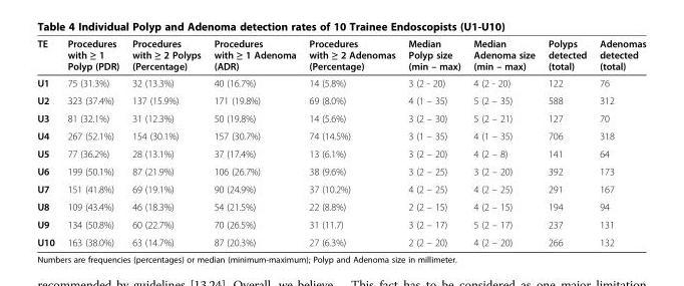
<table><thead><tr><td>TE</td><td>Procedures with ≥ 1 Polyp (PDR)</td><td>Procedures with ≥ 2 Polyps (Percentage)</td><td>Procedures with ≥ 1 Adenoma (ADR)</td><td>Procedures with ≥ 2 Adenomas (Percentage)</td><td>Median Polyp size (min – max)</td><td>Median Adenoma size (min – max)</td><td>Polyps detected (total)</td><td>Adenomas detected (total)</td></tr></thead><tbody><tr><td>U1</td><td>75 (31.3%)</td><td>32 (13.3%)</td><td>40 (16.7%)</td><td>14 (5.8%)</td><td>3 (2 - 20)</td><td>4 (2 - 20)</td><td>122</td><td>76</td></tr><tr><td>U2</td><td>323 (37.4%)</td><td>137 (15.9%)</td><td>171 (19.8%)</td><td>69 (8.0%)</td><td>4 (1 – 35)</td><td>5 (2 – 35)</td><td>588</td><td>312</td></tr><tr><td>U3</td><td>81 (32.1%)</td><td>31 (12.3%)</td><td>50 (19.8%)</td><td>14 (5.6%)</td><td>3 (2 – 30)</td><td>5 (2 – 21)</td><td>127</td><td>70</td></tr><tr><td>U4</td><td>267 (52.1%)</td><td>154 (30.1%)</td><td>157 (30.7%)</td><td>74 (14.5%)</td><td>3 (1 – 35)</td><td>4 (1 – 35)</td><td>706</td><td>318</td></tr><tr><td>U5</td><td>77 (36.2%)</td><td>28 (13.1%)</td><td>37 (17.4%)</td><td>13 (6.1%)</td><td>3 (2 – 20)</td><td>4 (2 – 8)</td><td>141</td><td>64</td></tr><tr><td>U6</td><td>199 (50.1%)</td><td>87 (21.9%)</td><td>106 (26.7%)</td><td>38 (9.6%)</td><td>3 (2 – 25)</td><td>3 (2 – 20)</td><td>392</td><td>173</td></tr><tr><td>U7</td><td>151 (41.8%)</td><td>69 (19.1%)</td><td>90 (24.9%)</td><td>37 (10.2%)</td><td>4 (2 – 25)</td><td>4 (2 – 25)</td><td>291</td><td>167</td></tr><tr><td>U8</td><td>109 (43.4%)</td><td>46 (18.3%)</td><td>54 (21.5%)</td><td>22 (8.8%)</td><td>2 (2 – 15)</td><td>4 (2 – 15)</td><td>194</td><td>94</td></tr><tr><td>U9</td><td>134 (50.8%)</td><td>60 (22.7%)</td><td>70 (26.5%)</td><td>31 (11.7)</td><td>3 (2 – 17)</td><td>5 (2 – 17)</td><td>237</td><td>131</td></tr><tr><td>U10</td><td>163 (38.0%)</td><td>63 (14.7%)</td><td>87 (20.3%)</td><td>27 (6.3%)</td><td>2 (2 – 20)</td><td>4 (2 – 20)</td><td>266</td><td>132</td></tr></tbody></table>